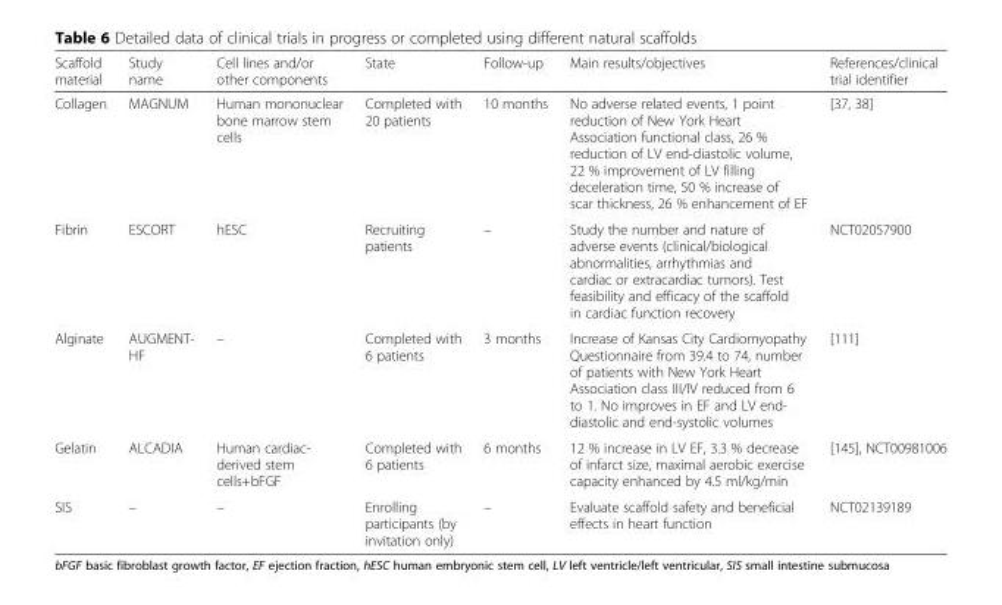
<table><thead><tr><td>Scaffold material</td><td>Study name</td><td>Cell lines and/or other components</td><td>State</td><td>Follow-up</td><td>Main results/objectives</td><td>References/clinical trial identifier</td></tr></thead><tbody><tr><td>Collagen</td><td>MAGNUM</td><td>Human mononuclear bone marrow stem cells</td><td>Completed with 20 patients</td><td>10 months</td><td>No adverse related events, 1 point reduction of New York Heart Association functional class, 26 % reduction of LV end-diastolic volume, 22 % improvement of LV filling deceleration time, 50 % increase of scar thickness, 26 % enhancement of EF</td><td>[37, 38]</td></tr><tr><td>Fibrin</td><td>ESCORT</td><td>hESC</td><td>Recruiting patients</td><td>–</td><td>Study the number and nature of adverse events (clinical/biological abnormalities, arrhythmias and cardiac or extracardiac tumors). Test feasibility and efficacy of the scaffold in cardiac function recovery</td><td>NCT02057900</td></tr><tr><td>Alginate</td><td>AUGMENT- HF</td><td>–</td><td>Completed with 6 patients</td><td>3 months</td><td>Increase of Kansas City Cardiomyopathy Questionnaire from 39.4 to 74, number of patients with New York Heart Association class III/IV reduced from 6 to 1. No improves in EF and LV end- diastolic and end-systolic volumes</td><td>[111]</td></tr><tr><td>Gelatin</td><td>ALCADIA</td><td>Human cardiac- derived stem cells+bFGF</td><td>Completed with 6 patients</td><td>6 months</td><td>12 % increase in LV EF, 3.3 % decrease of infarct size, maximal aerobic exercise capacity enhanced by 4.5 ml/kg/min</td><td>[145], NCT00981006</td></tr><tr><td>SIS</td><td>–</td><td>–</td><td>Enrolling participants (by invitation only)</td><td>–</td><td>Evaluate scaffold safety and beneficial effects in heart function</td><td>NCT02139189</td></tr></tbody></table>